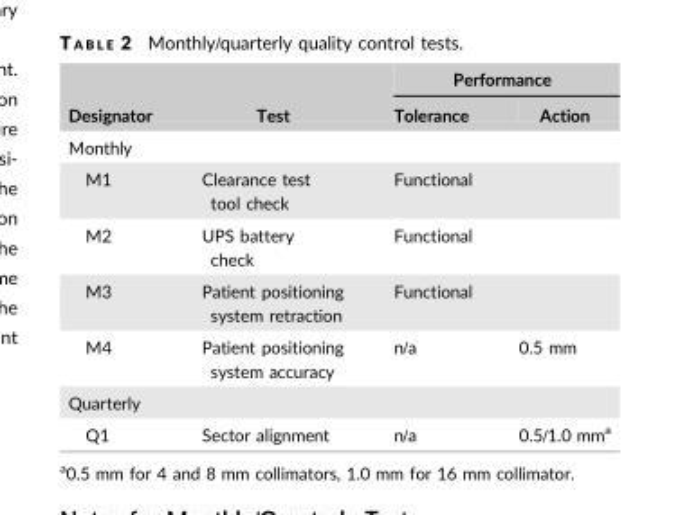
<table><thead><tr><td rowspan="2">Designator</td><td rowspan="2">Test</td><td colspan="2">Performance</td></tr><tr><td>Tolerance</td><td>Action</td></tr></thead><tbody><tr><td colspan="4">Monthly</td></tr><tr><td>M1</td><td>Clearance test tool check</td><td colspan="2">Functional</td></tr><tr><td>M2</td><td>UPS battery check</td><td colspan="2">Functional</td></tr><tr><td>M3</td><td>Patient positioning system retraction</td><td colspan="2">Functional</td></tr><tr><td>M4</td><td>Patient positioning system accuracy</td><td>n/a</td><td>0.5 mm</td></tr><tr><td colspan="4">Quarterly</td></tr><tr><td>Q1</td><td>Sector alignment</td><td>n/a</td><td>0.5/1.0 mm<sup>a</sup></td></tr></tbody></table>